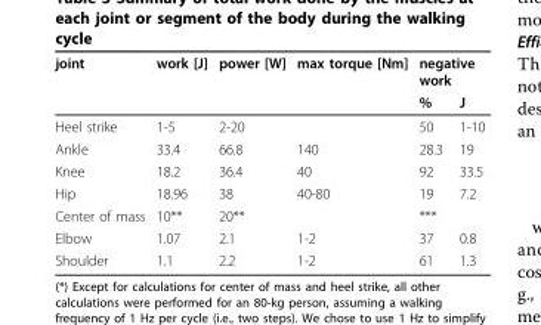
<table><thead><tr><td rowspan="2">joint</td><td rowspan="2">work [J]</td><td rowspan="2">power [W]</td><td rowspan="2">max torque [Nm]</td><td colspan="2">negative work</td></tr><tr><td>%</td><td>J</td></tr></thead><tbody><tr><td>Heel strike</td><td>1-5</td><td>2-20</td><td></td><td>50</td><td>1-10</td></tr><tr><td>Ankle</td><td>33.4</td><td>66.8</td><td>140</td><td>28.3</td><td>19</td></tr><tr><td>Knee</td><td>18.2</td><td>36.4</td><td>40</td><td>92</td><td>33.5</td></tr><tr><td>Hip</td><td>18.96</td><td>38</td><td>40-80</td><td>19</td><td>7.2</td></tr><tr><td>Center of mass</td><td>10**</td><td>20**</td><td></td><td>***</td><td></td></tr><tr><td>Elbow</td><td>1.07</td><td>2.1</td><td>1-2</td><td>37</td><td>0.8</td></tr><tr><td>Shoulder</td><td>1.1</td><td>2.2</td><td>1-2</td><td>61</td><td>1.3</td></tr></tbody></table>